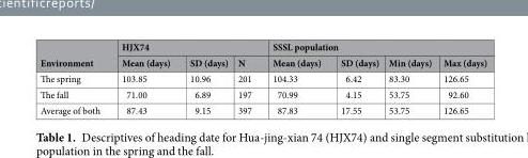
<table><thead><tr><td rowspan="2">Environment</td><td colspan="3">HJX74</td><td colspan="4">SSSL population</td></tr><tr><td>Mean (days)</td><td>SD (days)</td><td>N</td><td>Mean (days)</td><td>SD (days)</td><td>Min (days)</td><td>Max (days)</td></tr></thead><tbody><tr><td>The spring</td><td>103.85</td><td>10.96</td><td>201</td><td>104.33</td><td>6.42</td><td>83.30</td><td>126.65</td></tr><tr><td>The fall</td><td>71.00</td><td>6.89</td><td>197</td><td>70.99</td><td>4.15</td><td>53.75</td><td>92.60</td></tr><tr><td>Average of both</td><td>87.43</td><td>9.15</td><td>397</td><td>87.83</td><td>17.55</td><td>53.75</td><td>126.65</td></tr></tbody></table>